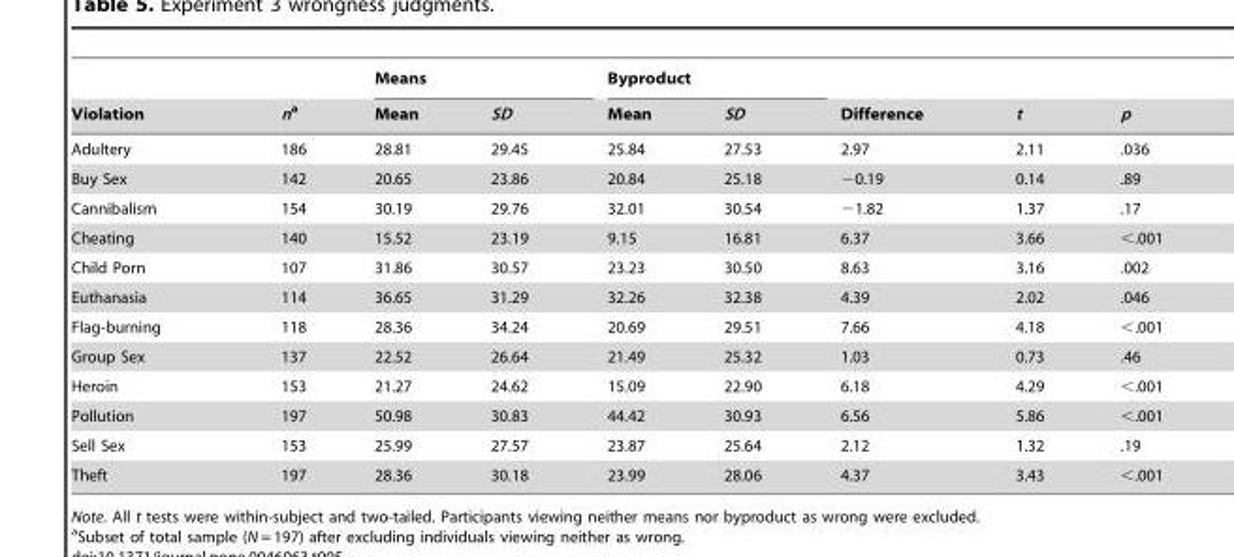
<table><thead><tr><td rowspan="2">Violation</td><td rowspan="2">na</td><td colspan="2">Means</td><td colspan="2">Byproduct</td><td rowspan="2">Difference</td><td rowspan="2">t</td><td rowspan="2">p</td></tr><tr><td>Mean</td><td>SD</td><td>Mean</td><td>SD</td></tr></thead><tbody><tr><td>Adultery</td><td>186</td><td>28.81</td><td>29.45</td><td>25.84</td><td>27.53</td><td>2.97</td><td>2.11</td><td>.036</td></tr><tr><td>Buy Sex</td><td>142</td><td>20.65</td><td>23.86</td><td>20.84</td><td>25.18</td><td>−0.19</td><td>0.14</td><td>.89</td></tr><tr><td>Cannibalism</td><td>154</td><td>30.19</td><td>29.76</td><td>32.01</td><td>30.54</td><td>−1.82</td><td>1.37</td><td>.17</td></tr><tr><td>Cheating</td><td>140</td><td>15.52</td><td>23.19</td><td>9.15</td><td>16.81</td><td>6.37</td><td>3.66</td><td>&lt;.001</td></tr><tr><td>Child Porn</td><td>107</td><td>31.86</td><td>30.57</td><td>23.23</td><td>30.50</td><td>8.63</td><td>3.16</td><td>.002</td></tr><tr><td>Euthanasia</td><td>114</td><td>36.65</td><td>31.29</td><td>32.26</td><td>32.38</td><td>4.39</td><td>2.02</td><td>.046</td></tr><tr><td>Flag-burning</td><td>118</td><td>28.36</td><td>34.24</td><td>20.69</td><td>29.51</td><td>7.66</td><td>4.18</td><td>&lt;.001</td></tr><tr><td>Group Sex</td><td>137</td><td>22.52</td><td>26.64</td><td>21.49</td><td>25.32</td><td>1.03</td><td>0.73</td><td>.46</td></tr><tr><td>Heroin</td><td>153</td><td>21.27</td><td>24.62</td><td>15.09</td><td>22.90</td><td>6.18</td><td>4.29</td><td>&lt;.001</td></tr><tr><td>Pollution</td><td>197</td><td>50.98</td><td>30.83</td><td>44.42</td><td>30.93</td><td>6.56</td><td>5.86</td><td>&lt;.001</td></tr><tr><td>Sell Sex</td><td>153</td><td>25.99</td><td>27.57</td><td>23.87</td><td>25.64</td><td>2.12</td><td>1.32</td><td>.19</td></tr><tr><td>Theft</td><td>197</td><td>28.36</td><td>30.18</td><td>23.99</td><td>28.06</td><td>4.37</td><td>3.43</td><td>&lt;.001</td></tr></tbody></table>